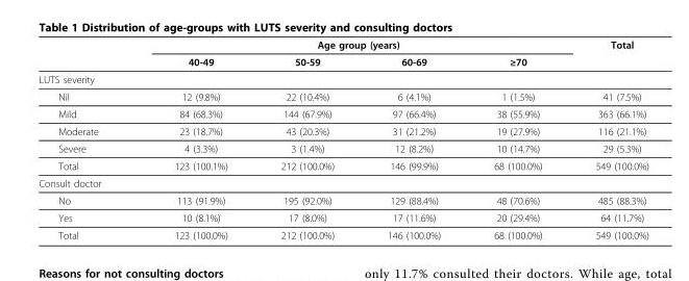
<table><thead><tr><td rowspan="2"></td><td colspan="4">Age group (years)</td><td rowspan="2">Total</td></tr><tr><td>40-49</td><td>50-59</td><td>60-69</td><td>≥70</td></tr></thead><tbody><tr><td colspan="6">LUTS severity</td></tr><tr><td>Nil</td><td>12 (9.8%)</td><td>22 (10.4%)</td><td>6 (4.1%)</td><td>1 (1.5%)</td><td>41 (7.5%)</td></tr><tr><td>Mild</td><td>84 (68.3%)</td><td>144 (67.9%)</td><td>97 (66.4%)</td><td>38 (55.9%)</td><td>363 (66.1%)</td></tr><tr><td>Moderate</td><td>23 (18.7%)</td><td>43 (20.3%)</td><td>31 (21.2%)</td><td>19 (27.9%)</td><td>116 (21.1%)</td></tr><tr><td>Severe</td><td>4 (3.3%)</td><td>3 (1.4%)</td><td>12 (8.2%)</td><td>10 (14.7%)</td><td>29 (5.3%)</td></tr><tr><td>Total</td><td>123 (100.1%)</td><td>212 (100.0%)</td><td>146 (99.9%)</td><td>68 (100.0%)</td><td>549 (100.0%)</td></tr><tr><td colspan="6">Consult doctor</td></tr><tr><td>No</td><td>113 (91.9%)</td><td>195 (92.0%)</td><td>129 (88.4%)</td><td>48 (70.6%)</td><td>485 (88.3%)</td></tr><tr><td>Yes</td><td>10 (8.1%)</td><td>17 (8.0%)</td><td>17 (11.6%)</td><td>20 (29.4%)</td><td>64 (11.7%)</td></tr><tr><td>Total</td><td>123 (100.0%)</td><td>212 (100.0%)</td><td>146 (100.0%)</td><td>68 (100.0%)</td><td>549 (100.0%)</td></tr></tbody></table>